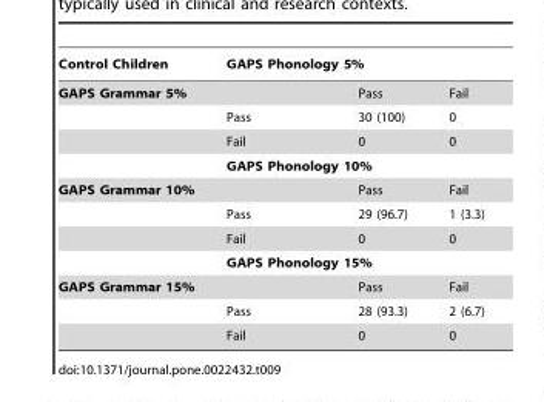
<table><thead><tr><td rowspan="2">Control Children GAPS Grammar 5%</td><td colspan="3">GAPS Phonology 5%</td></tr><tr><td></td><td>Pass</td><td>Fail</td></tr></thead><tbody><tr><td></td><td>Pass</td><td>30 (100)</td><td>0</td></tr><tr><td></td><td>Fail</td><td>0</td><td>0</td></tr><tr><td></td><td colspan="3">GAPS Phonology 10%</td></tr><tr><td rowspan="4">GAPS Grammar 10%</td><td></td><td>Pass</td><td>Fail</td></tr><tr><td>Pass</td><td>29 (96.7)</td><td>1 (3.3)</td></tr><tr><td>Fail</td><td>0</td><td>0</td></tr><tr><td colspan="3">GAPS Phonology 15%</td></tr><tr><td rowspan="3">GAPS Grammar 15%</td><td></td><td>Pass</td><td>Fail</td></tr><tr><td>Pass</td><td>28 (93.3)</td><td>2 (6.7)</td></tr><tr><td>Fail</td><td>0</td><td>0</td></tr></tbody></table>